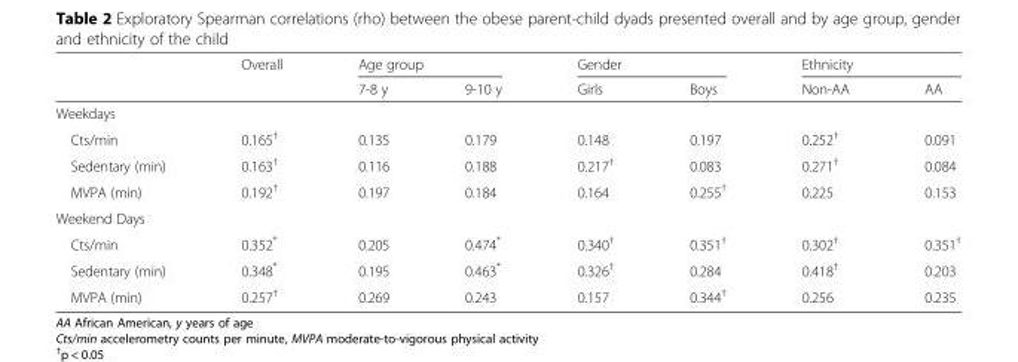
<table><thead><tr><td rowspan="2"></td><td rowspan="2">Overall</td><td colspan="2">Age group</td><td colspan="2">Gender</td><td colspan="2">Ethnicity</td></tr><tr><td>7-8 y</td><td>9-10 y</td><td>Girls</td><td>Boys</td><td>Non-AA</td><td>AA</td></tr></thead><tbody><tr><td colspan="8">Weekdays</td></tr><tr><td>Cts/min</td><td>0.165<sup>†</sup></td><td>0.135</td><td>0.179</td><td>0.148</td><td>0.197</td><td>0.252<sup>†</sup></td><td>0.091</td></tr><tr><td>Sedentary (min)</td><td>0.163<sup>†</sup></td><td>0.116</td><td>0.188</td><td>0.217<sup>†</sup></td><td>0.083</td><td>0.271<sup>†</sup></td><td>0.084</td></tr><tr><td>MVPA (min)</td><td>0.192<sup>†</sup></td><td>0.197</td><td>0.184</td><td>0.164</td><td>0.255<sup>†</sup></td><td>0.225</td><td>0.153</td></tr><tr><td colspan="8">Weekend Days</td></tr><tr><td>Cts/min</td><td>0.352*</td><td>0.205</td><td>0.474*</td><td>0.340<sup>†</sup></td><td>0.351<sup>†</sup></td><td>0.302<sup>†</sup></td><td>0.351<sup>†</sup></td></tr><tr><td>Sedentary (min)</td><td>0.348*</td><td>0.195</td><td>0.463*</td><td>0.326<sup>†</sup></td><td>0.284</td><td>0.418<sup>†</sup></td><td>0.203</td></tr><tr><td>MVPA (min)</td><td>0.257<sup>†</sup></td><td>0.269</td><td>0.243</td><td>0.157</td><td>0.344<sup>†</sup></td><td>0.256</td><td>0.235</td></tr></tbody></table>